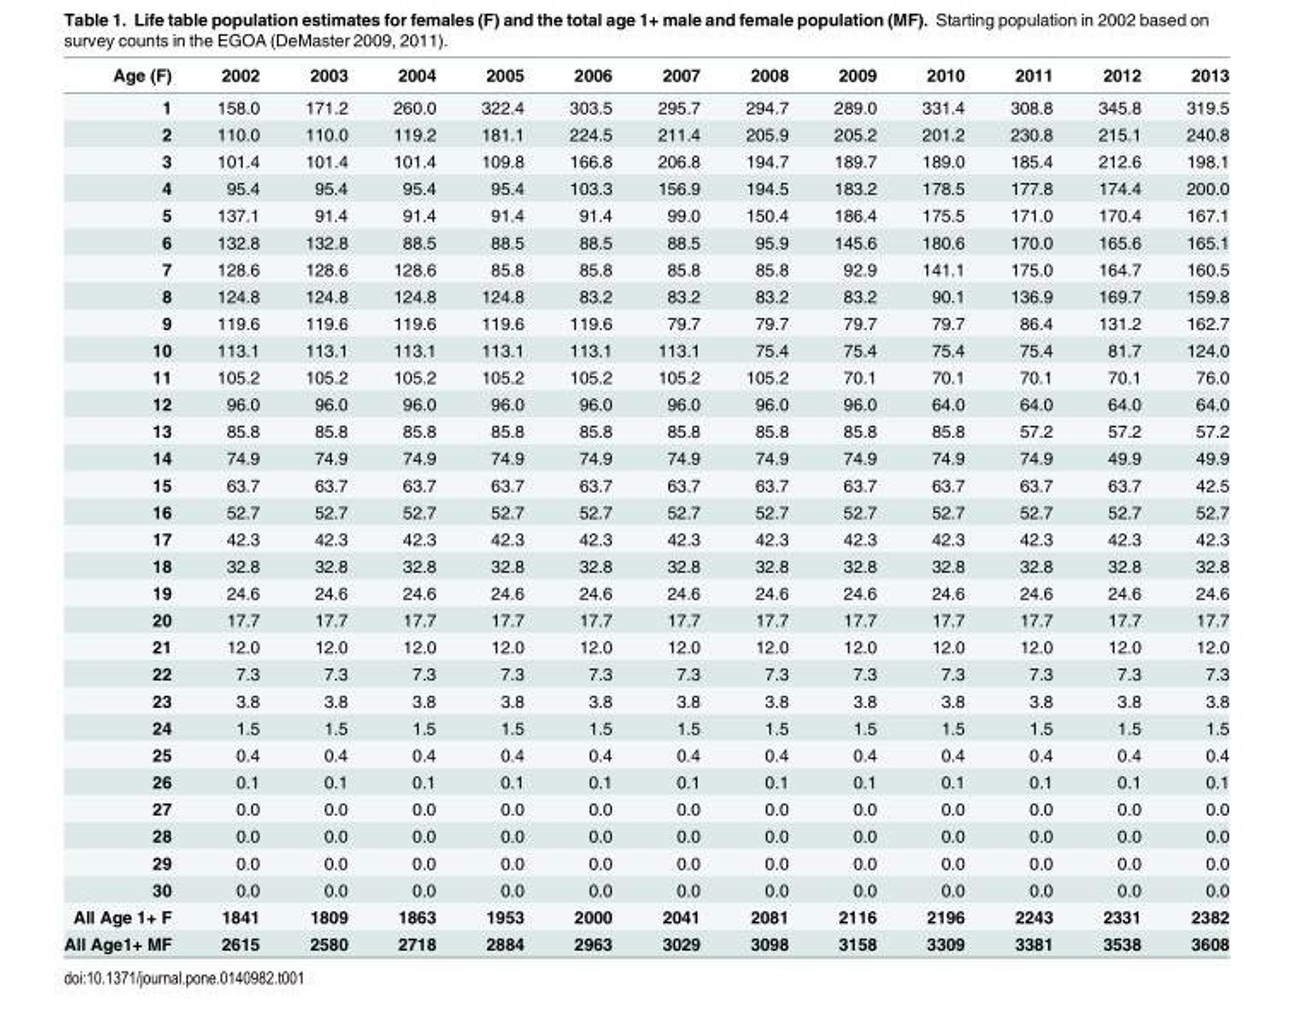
<table><thead><tr><td>Age (F)</td><td>2002</td><td>2003</td><td>2004</td><td>2005</td><td>2006</td><td>2007</td><td>2008</td><td>2009</td><td>2010</td><td>2011</td><td>2012</td><td>2013</td></tr></thead><tbody><tr><td>1</td><td>158.0</td><td>171.2</td><td>260.0</td><td>322.4</td><td>303.5</td><td>295.7</td><td>294.7</td><td>289.0</td><td>331.4</td><td>308.8</td><td>345.8</td><td>319.5</td></tr><tr><td>2</td><td>110.0</td><td>110.0</td><td>119.2</td><td>181.1</td><td>224.5</td><td>211.4</td><td>205.9</td><td>205.2</td><td>201.2</td><td>230.8</td><td>215.1</td><td>240.8</td></tr><tr><td>3</td><td>101.4</td><td>101.4</td><td>101.4</td><td>109.8</td><td>166.8</td><td>206.8</td><td>194.7</td><td>189.7</td><td>189.0</td><td>185.4</td><td>212.6</td><td>198.1</td></tr><tr><td>4</td><td>95.4</td><td>95.4</td><td>95.4</td><td>95.4</td><td>103.3</td><td>156.9</td><td>194.5</td><td>183.2</td><td>178.5</td><td>177.8</td><td>174.4</td><td>200.0</td></tr><tr><td>5</td><td>137.1</td><td>91.4</td><td>91.4</td><td>91.4</td><td>91.4</td><td>99.0</td><td>150.4</td><td>186.4</td><td>175.5</td><td>171.0</td><td>170.4</td><td>167.1</td></tr><tr><td>6</td><td>132.8</td><td>132.8</td><td>88.5</td><td>88.5</td><td>88.5</td><td>88.5</td><td>95.9</td><td>145.6</td><td>180.6</td><td>170.0</td><td>165.6</td><td>165.1</td></tr><tr><td>7</td><td>128.6</td><td>128.6</td><td>128.6</td><td>85.8</td><td>85.8</td><td>85.8</td><td>85.8</td><td>92.9</td><td>141.1</td><td>175.0</td><td>164.7</td><td>160.5</td></tr><tr><td>8</td><td>124.8</td><td>124.8</td><td>124.8</td><td>124.8</td><td>83.2</td><td>83.2</td><td>83.2</td><td>83.2</td><td>90.1</td><td>136.9</td><td>169.7</td><td>159.8</td></tr><tr><td>9</td><td>119.6</td><td>119.6</td><td>119.6</td><td>119.6</td><td>119.6</td><td>79.7</td><td>79.7</td><td>79.7</td><td>79.7</td><td>86.4</td><td>131.2</td><td>162.7</td></tr><tr><td>10</td><td>113.1</td><td>113.1</td><td>113.1</td><td>113.1</td><td>113.1</td><td>113.1</td><td>75.4</td><td>75.4</td><td>75.4</td><td>75.4</td><td>81.7</td><td>124.0</td></tr><tr><td>11</td><td>105.2</td><td>105.2</td><td>105.2</td><td>105.2</td><td>105.2</td><td>105.2</td><td>105.2</td><td>70.1</td><td>70.1</td><td>70.1</td><td>70.1</td><td>76.0</td></tr><tr><td>12</td><td>96.0</td><td>96.0</td><td>96.0</td><td>96.0</td><td>96.0</td><td>96.0</td><td>96.0</td><td>96.0</td><td>64.0</td><td>64.0</td><td>64.0</td><td>64.0</td></tr><tr><td>13</td><td>85.8</td><td>85.8</td><td>85.8</td><td>85.8</td><td>85.8</td><td>85.8</td><td>85.8</td><td>85.8</td><td>85.8</td><td>57.2</td><td>57.2</td><td>57.2</td></tr><tr><td>14</td><td>74.9</td><td>74.9</td><td>74.9</td><td>74.9</td><td>74.9</td><td>74.9</td><td>74.9</td><td>74.9</td><td>74.9</td><td>74.9</td><td>49.9</td><td>49.9</td></tr><tr><td>15</td><td>63.7</td><td>63.7</td><td>63.7</td><td>63.7</td><td>63.7</td><td>63.7</td><td>63.7</td><td>63.7</td><td>63.7</td><td>63.7</td><td>63.7</td><td>42.5</td></tr><tr><td>16</td><td>52.7</td><td>52.7</td><td>52.7</td><td>52.7</td><td>52.7</td><td>52.7</td><td>52.7</td><td>52.7</td><td>52.7</td><td>52.7</td><td>52.7</td><td>52.7</td></tr><tr><td>17</td><td>42.3</td><td>42.3</td><td>42.3</td><td>42.3</td><td>42.3</td><td>42.3</td><td>42.3</td><td>42.3</td><td>42.3</td><td>42.3</td><td>42.3</td><td>42.3</td></tr><tr><td>18</td><td>32.8</td><td>32.8</td><td>32.8</td><td>32.8</td><td>32.8</td><td>32.8</td><td>32.8</td><td>32.8</td><td>32.8</td><td>32.8</td><td>32.8</td><td>32.8</td></tr><tr><td>19</td><td>24.6</td><td>24.6</td><td>24.6</td><td>24.6</td><td>24.6</td><td>24.6</td><td>24.6</td><td>24.6</td><td>24.6</td><td>24.6</td><td>24.6</td><td>24.6</td></tr><tr><td>20</td><td>17.7</td><td>17.7</td><td>17.7</td><td>17.7</td><td>17.7</td><td>17.7</td><td>17.7</td><td>17.7</td><td>17.7</td><td>17.7</td><td>17.7</td><td>17.7</td></tr><tr><td>21</td><td>12.0</td><td>12.0</td><td>12.0</td><td>12.0</td><td>12.0</td><td>12.0</td><td>12.0</td><td>12.0</td><td>12.0</td><td>12.0</td><td>12.0</td><td>12.0</td></tr><tr><td>22</td><td>7.3</td><td>7.3</td><td>7.3</td><td>7.3</td><td>7.3</td><td>7.3</td><td>7.3</td><td>7.3</td><td>7.3</td><td>7.3</td><td>7.3</td><td>7.3</td></tr><tr><td>23</td><td>3.8</td><td>3.8</td><td>3.8</td><td>3.8</td><td>3.8</td><td>3.8</td><td>3.8</td><td>3.8</td><td>3.8</td><td>3.8</td><td>3.8</td><td>3.8</td></tr><tr><td>24</td><td>1.5</td><td>1.5</td><td>1.5</td><td>1.5</td><td>1.5</td><td>1.5</td><td>1.5</td><td>1.5</td><td>1.5</td><td>1.5</td><td>1.5</td><td>1.5</td></tr><tr><td>25</td><td>0.4</td><td>0.4</td><td>0.4</td><td>0.4</td><td>0.4</td><td>0.4</td><td>0.4</td><td>0.4</td><td>0.4</td><td>0.4</td><td>0.4</td><td>0.4</td></tr><tr><td>26</td><td>0.1</td><td>0.1</td><td>0.1</td><td>0.1</td><td>0.1</td><td>0.1</td><td>0.1</td><td>0.1</td><td>0.1</td><td>0.1</td><td>0.1</td><td>0.1</td></tr><tr><td>27</td><td>0.0</td><td>0.0</td><td>0.0</td><td>0.0</td><td>0.0</td><td>0.0</td><td>0.0</td><td>0.0</td><td>0.0</td><td>0.0</td><td>0.0</td><td>0.0</td></tr><tr><td>28</td><td>0.0</td><td>0.0</td><td>0.0</td><td>0.0</td><td>0.0</td><td>0.0</td><td>0.0</td><td>0.0</td><td>0.0</td><td>0.0</td><td>0.0</td><td>0.0</td></tr><tr><td>29</td><td>0.0</td><td>0.0</td><td>0.0</td><td>0.0</td><td>0.0</td><td>0.0</td><td>0.0</td><td>0.0</td><td>0.0</td><td>0.0</td><td>0.0</td><td>0.0</td></tr><tr><td>30</td><td>0.0</td><td>0.0</td><td>0.0</td><td>0.0</td><td>0.0</td><td>0.0</td><td>0.0</td><td>0.0</td><td>0.0</td><td>0.0</td><td>0.0</td><td>0.0</td></tr><tr><td>All Age 1+ F</td><td>1841</td><td>1809</td><td>1863</td><td>1953</td><td>2000</td><td>2041</td><td>2081</td><td>2116</td><td>2196</td><td>2243</td><td>2331</td><td>2382</td></tr><tr><td>All Age1+ MF</td><td>2615</td><td>2580</td><td>2718</td><td>2884</td><td>2963</td><td>3029</td><td>3098</td><td>3158</td><td>3309</td><td>3381</td><td>3538</td><td>3608</td></tr></tbody></table>